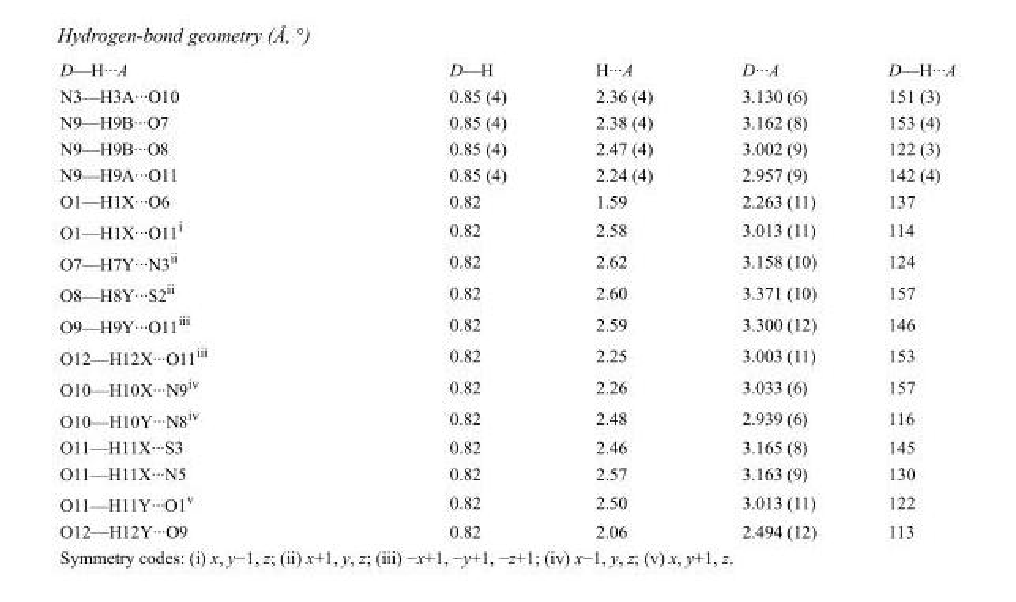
<table><tbody><tr><td>D—H···A</td><td>D—H</td><td>H···A</td><td>D···A</td><td>D—H···A</td></tr><tr><td>N3—H3A···O10</td><td>0.85 (4)</td><td>2.36 (4)</td><td>3.130 (6)</td><td>151 (3)</td></tr><tr><td>N9—H9B···O7</td><td>0.85 (4)</td><td>2.38 (4)</td><td>3.162 (8)</td><td>153 (4)</td></tr><tr><td>N9—H9B···O8</td><td>0.85 (4)</td><td>2.47 (4)</td><td>3.002 (9)</td><td>122 (3)</td></tr><tr><td>N9—H9A···O11</td><td>0.85 (4)</td><td>2.24 (4)</td><td>2.957 (9)</td><td>142 (4)</td></tr><tr><td>O1—H1X···O6</td><td>0.82</td><td>1.59</td><td>2.263 (11)</td><td>137</td></tr><tr><td>O1—H1X···O11<sup>i</sup></td><td>0.82</td><td>2.58</td><td>3.013 (11)</td><td>114</td></tr><tr><td>O7—H7Y···N3<sup>ii</sup></td><td>0.82</td><td>2.62</td><td>3.158 (10)</td><td>124</td></tr><tr><td>O8—H8Y···S2<sup>ii</sup></td><td>0.82</td><td>2.60</td><td>3.371 (10)</td><td>157</td></tr><tr><td>O9—H9Y···O11<sup>iii</sup></td><td>0.82</td><td>2.59</td><td>3.300 (12)</td><td>146</td></tr><tr><td>O12—H12X···O11<sup>iii</sup></td><td>0.82</td><td>2.25</td><td>3.003 (11)</td><td>153</td></tr><tr><td>O10—H10X···N9<sup>iv</sup></td><td>0.82</td><td>2.26</td><td>3.033 (6)</td><td>157</td></tr><tr><td>O10—H10Y···N8<sup>iv</sup></td><td>0.82</td><td>2.48</td><td>2.939 (6)</td><td>116</td></tr><tr><td>O11—H11X···S3</td><td>0.82</td><td>2.46</td><td>3.165 (8)</td><td>145</td></tr><tr><td>O11—H11X···N5</td><td>0.82</td><td>2.57</td><td>3.163 (9)</td><td>130</td></tr><tr><td>O11—H11Y···O1<sup>v</sup></td><td>0.82</td><td>2.50</td><td>3.013 (11)</td><td>122</td></tr><tr><td>O12—H12Y···O9</td><td>0.82</td><td>2.06</td><td>2.494 (12)</td><td>113</td></tr></tbody></table>